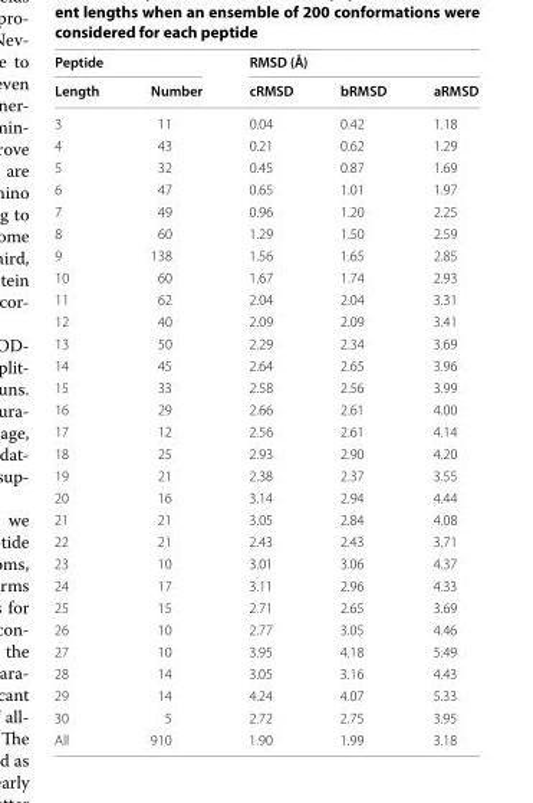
<table><thead><tr><td colspan="2">Peptide</td><td colspan="3">RMSD (Å)</td></tr><tr><td>Length</td><td>Number</td><td>cRMSD</td><td>bRMSD</td><td>aRMSD</td></tr></thead><tbody><tr><td>3</td><td>11</td><td>0.04</td><td>0.42</td><td>1.18</td></tr><tr><td>4</td><td>43</td><td>0.21</td><td>0.62</td><td>1.29</td></tr><tr><td>5</td><td>32</td><td>0.45</td><td>0.87</td><td>1.69</td></tr><tr><td>6</td><td>47</td><td>0.65</td><td>1.01</td><td>1.97</td></tr><tr><td>7</td><td>49</td><td>0.96</td><td>1.20</td><td>2.25</td></tr><tr><td>8</td><td>60</td><td>1.29</td><td>1.50</td><td>2.59</td></tr><tr><td>9</td><td>138</td><td>1.56</td><td>1.65</td><td>2.85</td></tr><tr><td>10</td><td>60</td><td>1.67</td><td>1.74</td><td>2.93</td></tr><tr><td>11</td><td>62</td><td>2.04</td><td>2.04</td><td>3.31</td></tr><tr><td>12</td><td>40</td><td>2.09</td><td>2.09</td><td>3.41</td></tr><tr><td>13</td><td>50</td><td>2.29</td><td>2.34</td><td>3.69</td></tr><tr><td>14</td><td>45</td><td>2.64</td><td>2.65</td><td>3.96</td></tr><tr><td>15</td><td>33</td><td>2.58</td><td>2.56</td><td>3.99</td></tr><tr><td>16</td><td>29</td><td>2.66</td><td>2.61</td><td>4.00</td></tr><tr><td>17</td><td>12</td><td>2.56</td><td>2.61</td><td>4.14</td></tr><tr><td>18</td><td>25</td><td>2.93</td><td>2.90</td><td>4.20</td></tr><tr><td>19</td><td>21</td><td>2.38</td><td>2.37</td><td>3.55</td></tr><tr><td>20</td><td>16</td><td>3.14</td><td>2.94</td><td>4.44</td></tr><tr><td>21</td><td>21</td><td>3.05</td><td>2.84</td><td>4.08</td></tr><tr><td>22</td><td>21</td><td>2.43</td><td>2.43</td><td>3.71</td></tr><tr><td>23</td><td>10</td><td>3.01</td><td>3.06</td><td>4.37</td></tr><tr><td>24</td><td>17</td><td>3.11</td><td>2.96</td><td>4.33</td></tr><tr><td>25</td><td>15</td><td>2.71</td><td>2.65</td><td>3.69</td></tr><tr><td>26</td><td>10</td><td>2.77</td><td>3.05</td><td>4.46</td></tr><tr><td>27</td><td>10</td><td>3.95</td><td>4.18</td><td>5.49</td></tr><tr><td>28</td><td>14</td><td>3.05</td><td>3.16</td><td>4.43</td></tr><tr><td>29</td><td>14</td><td>4.24</td><td>4.07</td><td>5.33</td></tr><tr><td>30</td><td>5</td><td>2.72</td><td>2.75</td><td>3.95</td></tr><tr><td>All</td><td>910</td><td>1.90</td><td>1.99</td><td>3.18</td></tr></tbody></table>